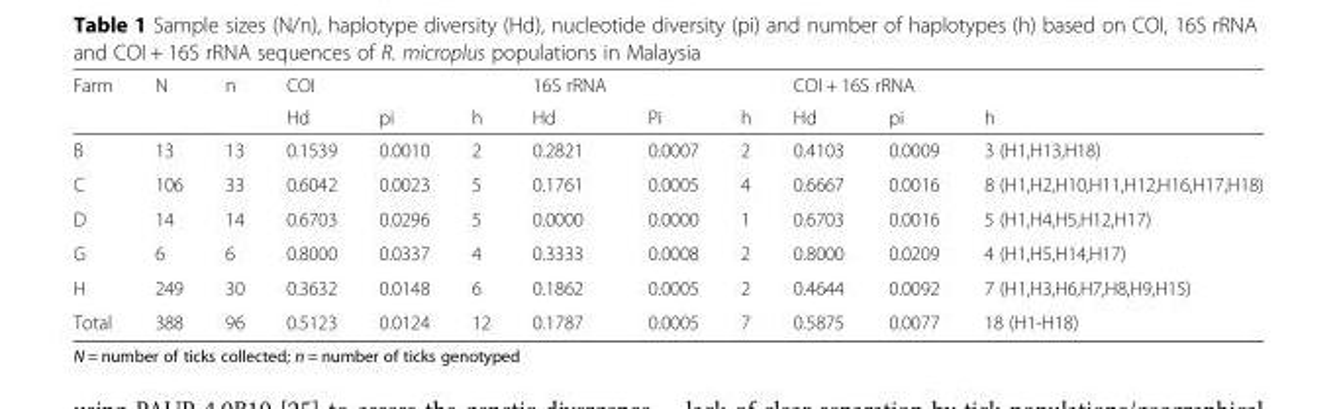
<table><thead><tr><td rowspan="2">Farm</td><td rowspan="2">N</td><td rowspan="2">n</td><td rowspan="2">COI Hd</td><td rowspan="2">pi</td><td rowspan="2">h</td><td rowspan="2">16S rRNA Hd</td><td rowspan="2">Pi</td><td rowspan="2">h</td><td colspan="2">COI + 16S rRNA</td><td rowspan="2">h</td></tr><tr><td>Hd</td><td>pi</td></tr></thead><tbody><tr><td>B</td><td>13</td><td>13</td><td>0.1539</td><td>0.0010</td><td>2</td><td>0.2821</td><td>0.0007</td><td>2</td><td>0.4103</td><td>0.0009</td><td>3 (H1,H13,H18)</td></tr><tr><td>C</td><td>106</td><td>33</td><td>0.6042</td><td>0.0023</td><td>5</td><td>0.1761</td><td>0.0005</td><td>4</td><td>0.6667</td><td>0.0016</td><td>8 (H1,H2,H10,H11,H12,H16,H17,H18)</td></tr><tr><td>D</td><td>14</td><td>14</td><td>0.6703</td><td>0.0296</td><td>5</td><td>0.0000</td><td>0.0000</td><td>1</td><td>0.6703</td><td>0.0016</td><td>5 (H1,H4,H5,H12,H17)</td></tr><tr><td>G</td><td>6</td><td>6</td><td>0.8000</td><td>0.0337</td><td>4</td><td>0.3333</td><td>0.0008</td><td>2</td><td>0.8000</td><td>0.0209</td><td>4 (H1,H5,H14,H17)</td></tr><tr><td>H</td><td>249</td><td>30</td><td>0.3632</td><td>0.0148</td><td>6</td><td>0.1862</td><td>0.0005</td><td>2</td><td>0.4644</td><td>0.0092</td><td>7 (H1,H3,H6,H7,H8,H9,H15)</td></tr><tr><td>Total</td><td>388</td><td>96</td><td>0.5123</td><td>0.0124</td><td>12</td><td>0.1787</td><td>0.0005</td><td>7</td><td>0.5875</td><td>0.0077</td><td>18 (H1-H18)</td></tr></tbody></table>